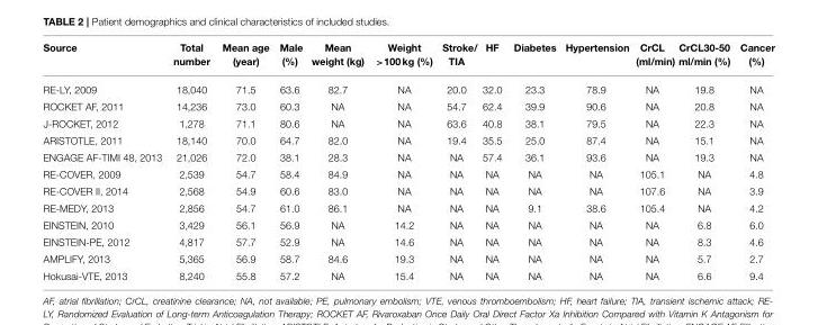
<table><thead><tr><td>Source</td><td>Total number</td><td>Mean age (year)</td><td>Male (%)</td><td>Mean weight (kg)</td><td>Weight &gt;100 kg (%)</td><td>Stroke/ TIA</td><td>HF</td><td>Diabetes</td><td>Hypertension</td><td>CrCL (ml/min)</td><td>CrCL30-50 ml/min (%)</td><td>Cancer (%)</td></tr></thead><tbody><tr><td>RE-LY, 2009</td><td>18,040</td><td>71.5</td><td>63.6</td><td>82.7</td><td>NA</td><td>20.0</td><td>32.0</td><td>23.3</td><td>78.9</td><td>NA</td><td>19.8</td><td>NA</td></tr><tr><td>ROCKET AF, 2011</td><td>14,236</td><td>73.0</td><td>60.3</td><td>NA</td><td>NA</td><td>54.7</td><td>62.4</td><td>39.9</td><td>90.6</td><td>NA</td><td>20.8</td><td>NA</td></tr><tr><td>J-ROCKET, 2012</td><td>1,278</td><td>71.1</td><td>80.6</td><td>NA</td><td>NA</td><td>63.6</td><td>40.8</td><td>38.1</td><td>79.5</td><td>NA</td><td>22.3</td><td>NA</td></tr><tr><td>ARISTOTLE, 2011</td><td>18,140</td><td>70.0</td><td>64.7</td><td>82.0</td><td>NA</td><td>19.4</td><td>35.5</td><td>25.0</td><td>87.4</td><td>NA</td><td>15.1</td><td>NA</td></tr><tr><td>ENGAGE AF-TIMI 48, 2013</td><td>21,026</td><td>72.0</td><td>38.1</td><td>28.3</td><td>NA</td><td>NA</td><td>57.4</td><td>36.1</td><td>93.6</td><td>NA</td><td>19.3</td><td>NA</td></tr><tr><td>RE-COVER, 2009</td><td>2,539</td><td>54.7</td><td>58.4</td><td>84.9</td><td>NA</td><td>NA</td><td>NA</td><td>NA</td><td>NA</td><td>105.1</td><td>NA</td><td>4.8</td></tr><tr><td>RE-COVER II, 2014</td><td>2,568</td><td>54.9</td><td>60.6</td><td>83.0</td><td>NA</td><td>NA</td><td>NA</td><td>NA</td><td>NA</td><td>107.6</td><td>NA</td><td>3.9</td></tr><tr><td>RE-MEDY, 2013</td><td>2,856</td><td>54.7</td><td>61.0</td><td>86.1</td><td>NA</td><td>NA</td><td>NA</td><td>9.1</td><td>38.6</td><td>105.4</td><td>NA</td><td>4.2</td></tr><tr><td>EINSTEIN, 2010</td><td>3,429</td><td>56.1</td><td>56.9</td><td>NA</td><td>14.2</td><td>NA</td><td>NA</td><td>NA</td><td>NA</td><td>NA</td><td>6.8</td><td>6.0</td></tr><tr><td>EINSTEIN-PE, 2012</td><td>4,817</td><td>57.7</td><td>52.9</td><td>NA</td><td>14.6</td><td>NA</td><td>NA</td><td>NA</td><td>NA</td><td>NA</td><td>8.3</td><td>4.6</td></tr><tr><td>AMPLIFY, 2013</td><td>5,365</td><td>56.9</td><td>58.7</td><td>84.6</td><td>19.3</td><td>NA</td><td>NA</td><td>NA</td><td>NA</td><td>NA</td><td>5.7</td><td>2.7</td></tr><tr><td>Hokusai-VTE, 2013</td><td>8,240</td><td>55.8</td><td>57.2</td><td>NA</td><td>15.4</td><td>NA</td><td>NA</td><td>NA</td><td>NA</td><td>NA</td><td>6.6</td><td>9.4</td></tr></tbody></table>